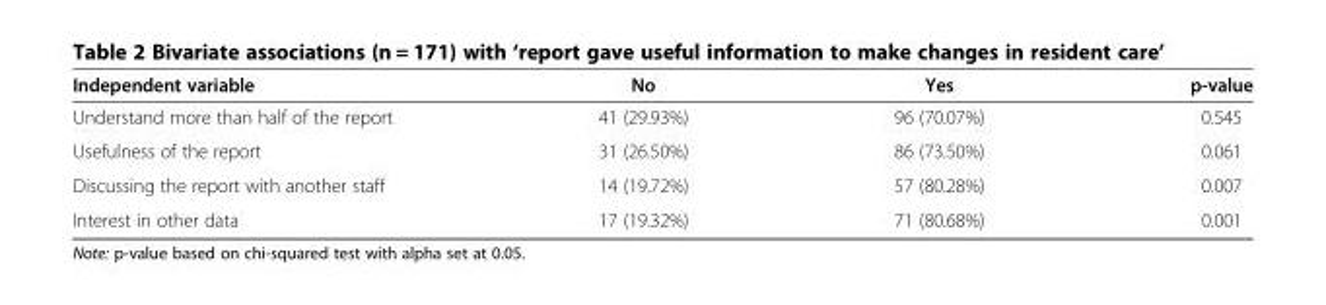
<table><thead><tr><td>Independent variable</td><td>No</td><td>Yes</td><td>p-value</td></tr></thead><tbody><tr><td>Understand more than half of the report</td><td>41 (29.93%)</td><td>96 (70.07%)</td><td>0.545</td></tr><tr><td>Usefulness of the report</td><td>31 (26.50%)</td><td>86 (73.50%)</td><td>0.061</td></tr><tr><td>Discussing the report with another staff</td><td>14 (19.72%)</td><td>57 (80.28%)</td><td>0.007</td></tr><tr><td>Interest in other data</td><td>17 (19.32%)</td><td>71 (80.68%)</td><td>0.001</td></tr></tbody></table>